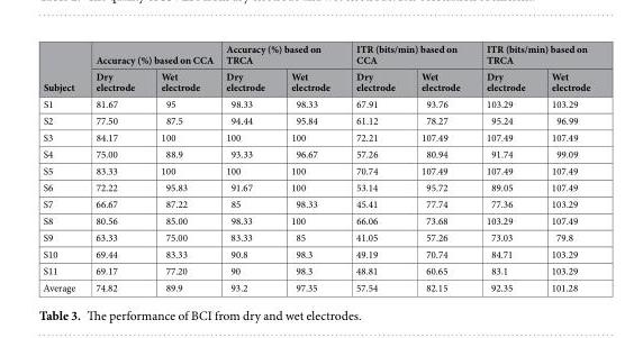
<table><thead><tr><td rowspan="2">Subject</td><td colspan="2">Accuracy (%) based on CCA</td><td colspan="2">Accuracy (%) based on TRCA</td><td colspan="2">ITR (bits/min) based on CCA</td><td colspan="2">ITR (bits/min) based on TRCA</td></tr><tr><td>Dry electrode</td><td>Wet electrode</td><td>Dry electrode</td><td>Wet electrode</td><td>Dry electrode</td><td>Wet electrode</td><td>Dry electrode</td><td>Wet electrode</td></tr></thead><tbody><tr><td>S1</td><td>81.67</td><td>95</td><td>98.33</td><td>98.33</td><td>67.91</td><td>93.76</td><td>103.29</td><td>103.29</td></tr><tr><td>S2</td><td>77.50</td><td>87.5</td><td>94.44</td><td>95.84</td><td>61.12</td><td>78.27</td><td>95.24</td><td>96.99</td></tr><tr><td>S3</td><td>84.17</td><td>100</td><td>100</td><td>100</td><td>72.21</td><td>107.49</td><td>107.49</td><td>107.49</td></tr><tr><td>S4</td><td>75.00</td><td>88.9</td><td>93.33</td><td>96.67</td><td>57.26</td><td>80.94</td><td>91.74</td><td>99.09</td></tr><tr><td>S5</td><td>83.33</td><td>100</td><td>100</td><td>100</td><td>70.74</td><td>107.49</td><td>107.49</td><td>107.49</td></tr><tr><td>S6</td><td>72.22</td><td>95.83</td><td>91.67</td><td>100</td><td>53.14</td><td>95.72</td><td>89.05</td><td>107.49</td></tr><tr><td>S7</td><td>66.67</td><td>87.22</td><td>85</td><td>98.33</td><td>45.41</td><td>77.74</td><td>77.36</td><td>103.29</td></tr><tr><td>S8</td><td>80.56</td><td>85.00</td><td>98.33</td><td>100</td><td>66.06</td><td>73.68</td><td>103.29</td><td>107.49</td></tr><tr><td>S9</td><td>63.33</td><td>75.00</td><td>83.33</td><td>85</td><td>41.05</td><td>57.26</td><td>73.03</td><td>79.8</td></tr><tr><td>S10</td><td>69.44</td><td>83.33</td><td>90.8</td><td>98.3</td><td>49.19</td><td>70.74</td><td>84.71</td><td>103.29</td></tr><tr><td>S11</td><td>69.17</td><td>77.20</td><td>90</td><td>98.3</td><td>48.81</td><td>60.65</td><td>83.1</td><td>103.29</td></tr><tr><td>Average</td><td>74.82</td><td>89.9</td><td>93.2</td><td>97.35</td><td>57.54</td><td>82.15</td><td>92.35</td><td>101.28</td></tr></tbody></table>